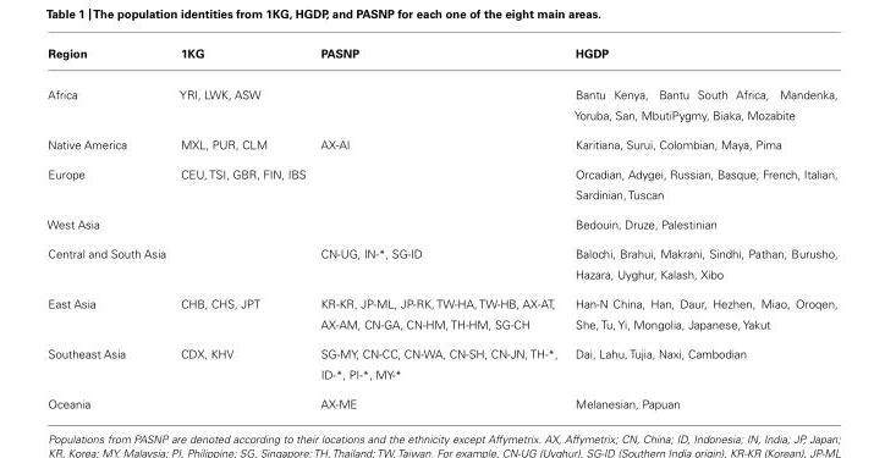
<table><thead><tr><td>Region</td><td>1KG</td><td>PASNP</td><td>HGDP</td></tr></thead><tbody><tr><td>Africa</td><td>YRI, LWK, ASW</td><td></td><td>Bantu Kenya, Bantu South Africa, Mandenka, Yoruba, San, MbutiPygmy, Biaka, Mozabite</td></tr><tr><td>Native America</td><td>MXL, PUR, CLM</td><td>AX-AI</td><td>Karitiana, Surui, Colombian, Maya, Pima</td></tr><tr><td>Europe</td><td>CEU, TSI, GBR, FIN, IBS</td><td></td><td>Orcadian, Adygei, Russian, Basque, French, Italian, Sardinian, Tuscan</td></tr><tr><td>West Asia</td><td></td><td></td><td>Bedouin, Druze, Palestinian</td></tr><tr><td>Central and South Asia</td><td></td><td>CN-UG, IN-*, SG-ID</td><td>Balochi, Brahui, Makrani, Sindhi, Pathan, Burusho, Hazara, Uyghur, Kalash, Xibo</td></tr><tr><td>East Asia</td><td>CHB, CHS, JPT</td><td>KR-KR, JP-ML, JP-RK, TW-HA, TW-HB, AX-AT, AX-AM, CN-GA, CN-HM, TH-HM, SG-CH</td><td>Han-N China, Han, Daur, Hezhen, Miao, Oroqen, She, Tu, Yi, Mongolia, Japanese, Yakut</td></tr><tr><td>Southeast Asia</td><td>CDX, KHV</td><td>SG-MY, CN-CC, CN-WA, CN-SH, CN-JN, TH-*, ID-*, PI-*, MY-*</td><td>Dai, Lahu, Tujia, Naxi, Cambodian</td></tr><tr><td>Oceania</td><td></td><td>AX-ME</td><td>Melanesian, Papuan</td></tr></tbody></table>